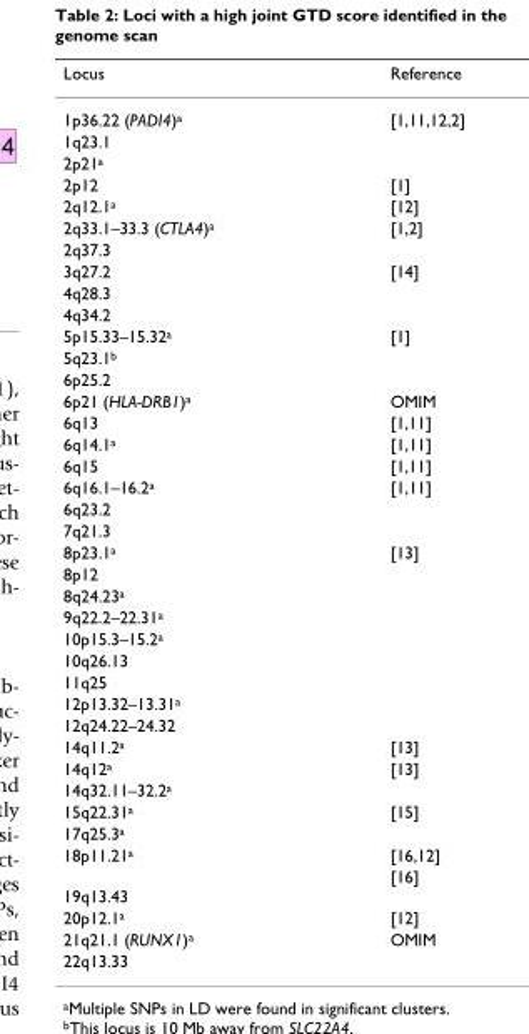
<table><thead><tr><td>Locus</td><td>Reference</td></tr></thead><tbody><tr><td>1p36.22 (PADI4)<sup>a</sup></td><td>[1,11,12,2]</td></tr><tr><td colspan="2">1q23.1</td></tr><tr><td colspan="2">2p21<sup>a</sup></td></tr><tr><td>2p12</td><td>[1]</td></tr><tr><td>2q12.1<sup>a</sup></td><td>[12]</td></tr><tr><td>2q33.1–33.3 (CTLA4)<sup>a</sup></td><td>[1,2]</td></tr><tr><td colspan="2">2q37.3</td></tr><tr><td>3q27.2</td><td>[14]</td></tr><tr><td colspan="2">4q28.3</td></tr><tr><td colspan="2">4q34.2</td></tr><tr><td>5p15.33–15.32<sup>a</sup></td><td>[1]</td></tr><tr><td colspan="2">5q23.1<sup>b</sup></td></tr><tr><td colspan="2">6p25.2</td></tr><tr><td>6p21 (HLA-DRB1)<sup>a</sup></td><td>OMIM</td></tr><tr><td>6q13</td><td>[1,11]</td></tr><tr><td>6q14.1<sup>a</sup></td><td>[1,11]</td></tr><tr><td>6q15</td><td>[1,11]</td></tr><tr><td>6q16.1–16.2<sup>a</sup></td><td>[1,11]</td></tr><tr><td colspan="2">6q23.2</td></tr><tr><td colspan="2">7q21.3</td></tr><tr><td>8p23.1<sup>a</sup></td><td>[13]</td></tr><tr><td colspan="2">8p12</td></tr><tr><td colspan="2">8q24.23<sup>a</sup></td></tr><tr><td colspan="2">9q22.2–22.31<sup>a</sup></td></tr><tr><td colspan="2">10p15.3–15.2<sup>a</sup></td></tr><tr><td colspan="2">10q26.13</td></tr><tr><td colspan="2">11q25</td></tr><tr><td colspan="2">12p13.32–13.31<sup>a</sup></td></tr><tr><td colspan="2">12q24.22–24.32</td></tr><tr><td>14q11.2<sup>a</sup></td><td>[13]</td></tr><tr><td>14q12<sup>a</sup></td><td>[13]</td></tr><tr><td colspan="2">14q32.11–32.2<sup>a</sup></td></tr><tr><td>15q22.31<sup>a</sup></td><td>[15]</td></tr><tr><td colspan="2">17q25.3<sup>a</sup></td></tr><tr><td>18p11.21<sup>a</sup></td><td>[16,12]</td></tr><tr><td>19q13.43</td><td>[16]</td></tr><tr><td>20p12.1<sup>a</sup></td><td>[12]</td></tr><tr><td>21q21.1 (RUNX1)<sup>a</sup></td><td>OMIM</td></tr><tr><td>22q13.33</td><td></td></tr></tbody></table>